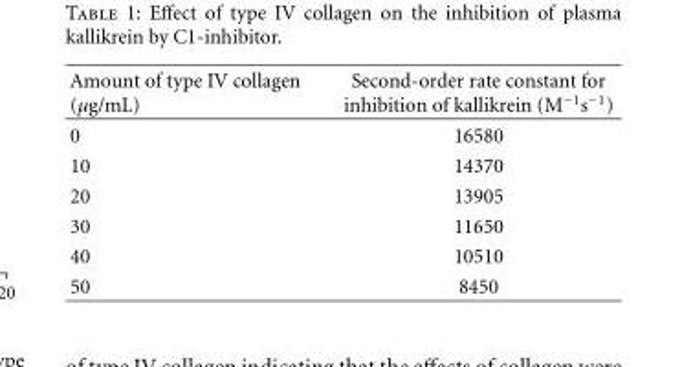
<table><thead><tr><td>Amount of type IV collagen (μg/mL)</td><td>Second-order rate constant for inhibition of kallikrein (M<sup>−1</sup>s<sup>−1</sup>)</td></tr></thead><tbody><tr><td>0</td><td>16580</td></tr><tr><td>10</td><td>14370</td></tr><tr><td>20</td><td>13905</td></tr><tr><td>30</td><td>11650</td></tr><tr><td>40</td><td>10510</td></tr><tr><td>50</td><td>8450</td></tr></tbody></table>